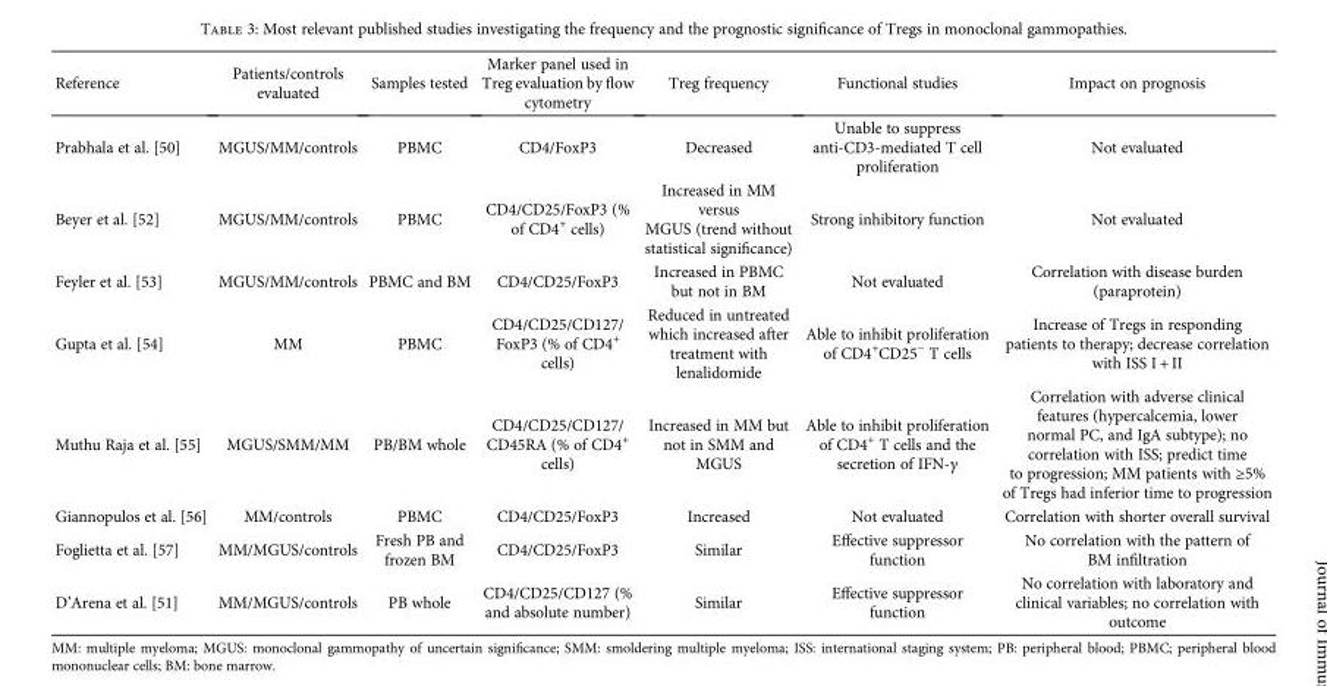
<table><thead><tr><td>Reference</td><td>Patients/controls evaluated</td><td>Samples tested</td><td>Marker panel used in Treg evaluation by flow cytometry</td><td>Treg frequency</td><td>Functional studies</td><td>Impact on prognosis</td></tr></thead><tbody><tr><td>Prabhala et al. [50]</td><td>MGUS/MM/controls</td><td>PBMC</td><td>CD4/FoxP3</td><td>Decreased</td><td>Unable to suppress anti-CD3-mediated T cell proliferation</td><td>Not evaluated</td></tr><tr><td>Beyer et al. [52]</td><td>MGUS/MM/controls</td><td>PBMC</td><td>CD4/CD25/FoxP3 (% of CD4<sup>+</sup> cells)</td><td>Increased in MM versus MGUS (trend without statistical significance)</td><td>Strong inhibitory function</td><td>Not evaluated</td></tr><tr><td>Feyler et al. [53]</td><td>MGUS/MM/controls</td><td>PBMC and BM</td><td>CD4/CD25/FoxP3</td><td>Increased in PBMC but not in BM</td><td>Not evaluated</td><td>Correlation with disease burden (paraprotein)</td></tr><tr><td>Gupta et al. [54]</td><td>MM</td><td>PBMC</td><td>CD4/CD25/CD127/ FoxP3 (% of CD4<sup>+</sup> cells)</td><td>Reduced in untreated which increased after treatment with lenalidomide</td><td>Able to inhibit proliferation of CD4<sup>+</sup>CD25<sup>−</sup> T cells</td><td>Increase of Tregs in responding patients to therapy; decrease correlation with ISS I + II</td></tr><tr><td>Muthu Raja et al. [55]</td><td>MGUS/SMM/MM</td><td>PB/BM whole</td><td>CD4/CD25/CD127/ CD45RA (% of CD4<sup>+</sup> cells)</td><td>Increased in MM but not in SMM and MGUS</td><td>Able to inhibit proliferation of CD4<sup>+</sup> T cells and the secretion of IFN-γ</td><td>Correlation with adverse clinical features (hypercalcemia, lower normal PC, and IgA subtype); no correlation with ISS; predict time to progression; MM patients with ≥5% of Tregs had inferior time to progression</td></tr><tr><td>Giannopulos et al. [56]</td><td>MM/controls</td><td>PBMC</td><td>CD4/CD25/FoxP3</td><td>Increased</td><td>Not evaluated</td><td>Correlation with shorter overall survival</td></tr><tr><td>Foglietta et al. [57]</td><td>MM/MGUS/controls</td><td>Fresh PB and frozen BM</td><td>CD4/CD25/FoxP3</td><td>Similar</td><td>Effective suppressor function</td><td>No correlation with the pattern of BM infiltration</td></tr><tr><td>D’Arena et al. [51]</td><td>MM/MGUS/controls</td><td>PB whole</td><td>CD4/CD25/CD127 (% and absolute number)</td><td>Similar</td><td>Effective suppressor function</td><td>No correlation with laboratory and clinical variables; no correlation with outcome</td></tr></tbody></table>